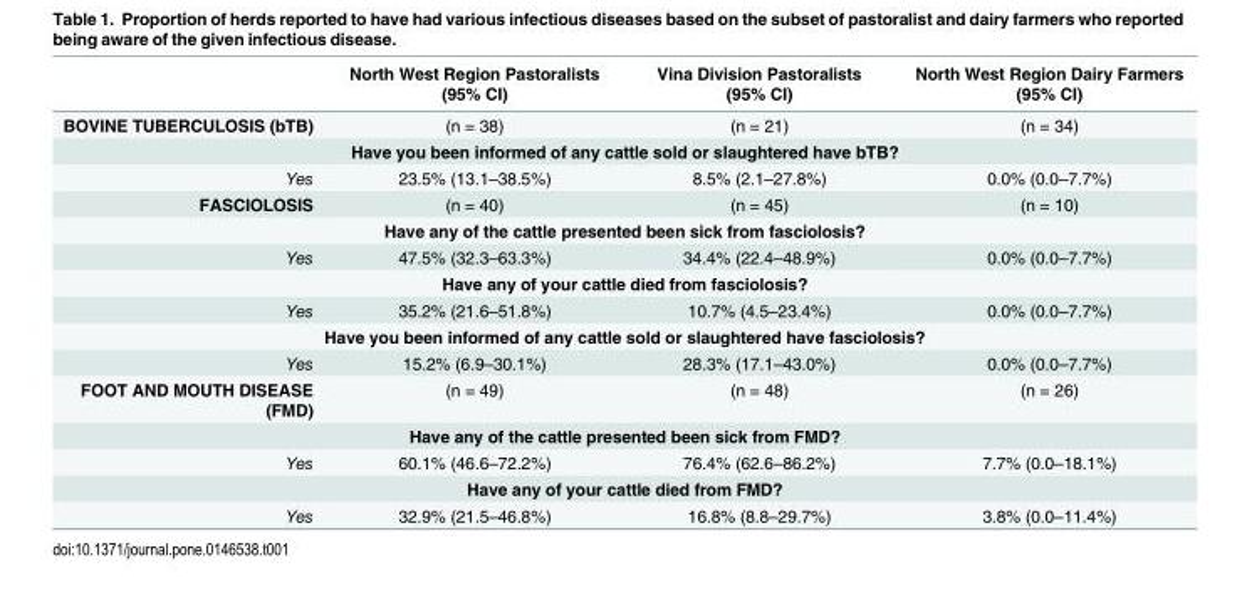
<table><thead><tr><td></td><td>North West Region Pastoralists (95% CI)</td><td>Vina Division Pastoralists (95% CI)</td><td>North West Region Dairy Farmers (95% CI)</td></tr></thead><tbody><tr><td>BOVINE TUBERCULOSIS (bTB)</td><td>(n = 38)</td><td>(n = 21)</td><td>(n = 34)</td></tr><tr><td colspan="4">Have you been informed of any cattle sold or slaughtered have bTB?</td></tr><tr><td>Yes</td><td>23.5% (13.1–38.5%)</td><td>8.5% (2.1–27.8%)</td><td>0.0% (0.0–7.7%)</td></tr><tr><td>FASCIOLOSIS</td><td>(n = 40)</td><td>(n = 45)</td><td>(n = 10)</td></tr><tr><td colspan="4">Have any of the cattle presented been sick from fasciolosis?</td></tr><tr><td>Yes</td><td>47.5% (32.3–63.3%)</td><td>34.4% (22.4–48.9%)</td><td>0.0% (0.0–7.7%)</td></tr><tr><td colspan="4">Have any of your cattle died from fasciolosis?</td></tr><tr><td>Yes</td><td>35.2% (21.6–51.8%)</td><td>10.7% (4.5–23.4%)</td><td>0.0% (0.0–7.7%)</td></tr><tr><td colspan="4">Have you been informed of any cattle sold or slaughtered have fasciolosis?</td></tr><tr><td>Yes</td><td>15.2% (6.9–30.1%)</td><td>28.3% (17.1–43.0%)</td><td>0.0% (0.0–7.7%)</td></tr><tr><td>FOOT AND MOUTH DISEASE (FMD)</td><td>(n = 49)</td><td>(n = 48)</td><td>(n = 26)</td></tr><tr><td colspan="4">Have any of the cattle presented been sick from FMD?</td></tr><tr><td>Yes</td><td>60.1% (46.6–72.2%)</td><td>76.4% (62.6–86.2%)</td><td>7.7% (0.0–18.1%)</td></tr><tr><td colspan="4">Have any of your cattle died from FMD?</td></tr><tr><td>Yes</td><td>32.9% (21.5–46.8%)</td><td>16.8% (8.8–29.7%)</td><td>3.8% (0.0–11.4%)</td></tr></tbody></table>